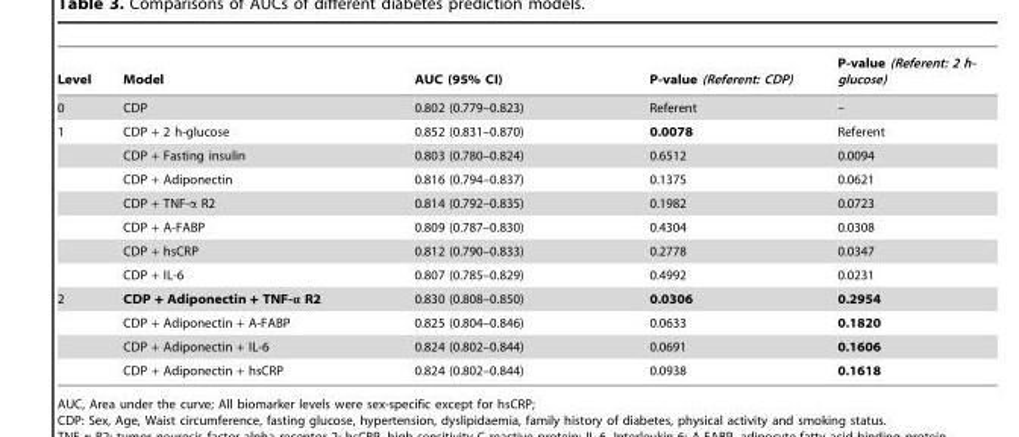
<table><thead><tr><td>Level</td><td>Model</td><td>AUC (95% CI)</td><td>P-value (Referent: CDP)</td><td>P-value (Referent: 2 glucose)</td></tr></thead><tbody><tr><td>0</td><td>CDP</td><td>0.802 (0.779–0.823)</td><td>Referent</td><td>–</td></tr><tr><td rowspan="7">1</td><td>CDP + 2 h-glucose</td><td>0.852 (0.831–0.870)</td><td>0.0078</td><td>Referent</td></tr><tr><td>CDP + Fasting insulin</td><td>0.803 (0.780–0.824)</td><td>0.6512</td><td>0.0094</td></tr><tr><td>CDP + Adiponectin</td><td>0.816 (0.794–0.837)</td><td>0.1375</td><td>0.0621</td></tr><tr><td>CDP + TNF-α R2</td><td>0.814 (0.792–0.835)</td><td>0.1982</td><td>0.0723</td></tr><tr><td>CDP + A-FABP</td><td>0.809 (0.787–0.830)</td><td>0.4304</td><td>0.0308</td></tr><tr><td>CDP + hsCRP</td><td>0.812 (0.790–0.833)</td><td>0.2778</td><td>0.0347</td></tr><tr><td>CDP + IL-6</td><td>0.807 (0.785–0.829)</td><td>0.4992</td><td>0.0231</td></tr><tr><td rowspan="4">2</td><td>CDP + Adiponectin + TNF-α R2</td><td>0.830 (0.808–0.850)</td><td>0.0306</td><td>0.2954</td></tr><tr><td>CDP + Adiponectin + A-FABP</td><td>0.825 (0.804–0.846)</td><td>0.0633</td><td>0.1820</td></tr><tr><td>CDP + Adiponectin + IL-6</td><td>0.824 (0.802–0.844)</td><td>0.0691</td><td>0.1606</td></tr><tr><td>CDP + Adiponectin + hsCRP</td><td>0.824 (0.802–0.844)</td><td>0.0938</td><td>0.1618</td></tr></tbody></table>